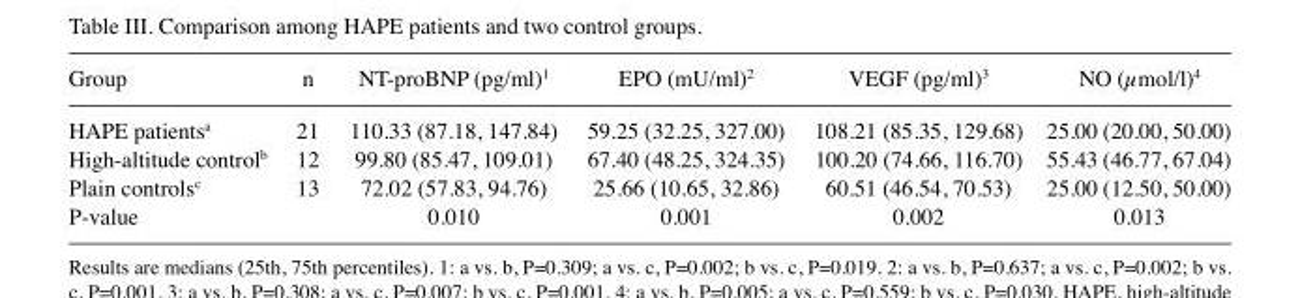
<table><thead><tr><td>Group</td><td>n</td><td>NT-proBNP (pg/ml)<sup>1</sup></td><td>EPO (mU/ml)<sup>2</sup></td><td>VEGF (pg/ml)<sup>3</sup></td><td>NO (µmol/l)<sup>4</sup></td></tr></thead><tbody><tr><td>HAPE patients<sup>a</sup></td><td>21</td><td>110.33 (87.18, 147.84)</td><td>59.25 (32.25, 327.00)</td><td>108.21 (85.35, 129.68)</td><td>25.00 (20.00, 50.00)</td></tr><tr><td>High-altitude control<sup>b</sup></td><td>12</td><td>99.80 (85.47, 109.01)</td><td>67.40 (48.25, 324.35)</td><td>100.20 (74.66, 116.70)</td><td>55.43 (46.77, 67.04)</td></tr><tr><td>Plain controls<sup>c</sup></td><td>13</td><td>72.02 (57.83, 94.76)</td><td>25.66 (10.65, 32.86)</td><td>60.51 (46.54, 70.53)</td><td>25.00 (12.50, 50.00)</td></tr><tr><td>P-value</td><td></td><td>0.010</td><td>0.001</td><td>0.002</td><td>0.013</td></tr></tbody></table>